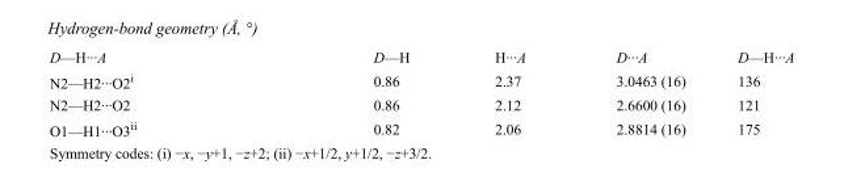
<table><tbody><tr><td>D—H···A</td><td>D—H</td><td>H···A</td><td>D···A</td><td>D—H···A</td></tr><tr><td>N2—H2···O2<sup>i</sup></td><td>0.86</td><td>2.37</td><td>3.0463 (16)</td><td>136</td></tr><tr><td>N2—H2···O2</td><td>0.86</td><td>2.12</td><td>2.6600 (16)</td><td>121</td></tr><tr><td>O1—H1···O3<sup>ii</sup></td><td>0.82</td><td>2.06</td><td>2.8814 (16)</td><td>175</td></tr></tbody></table>